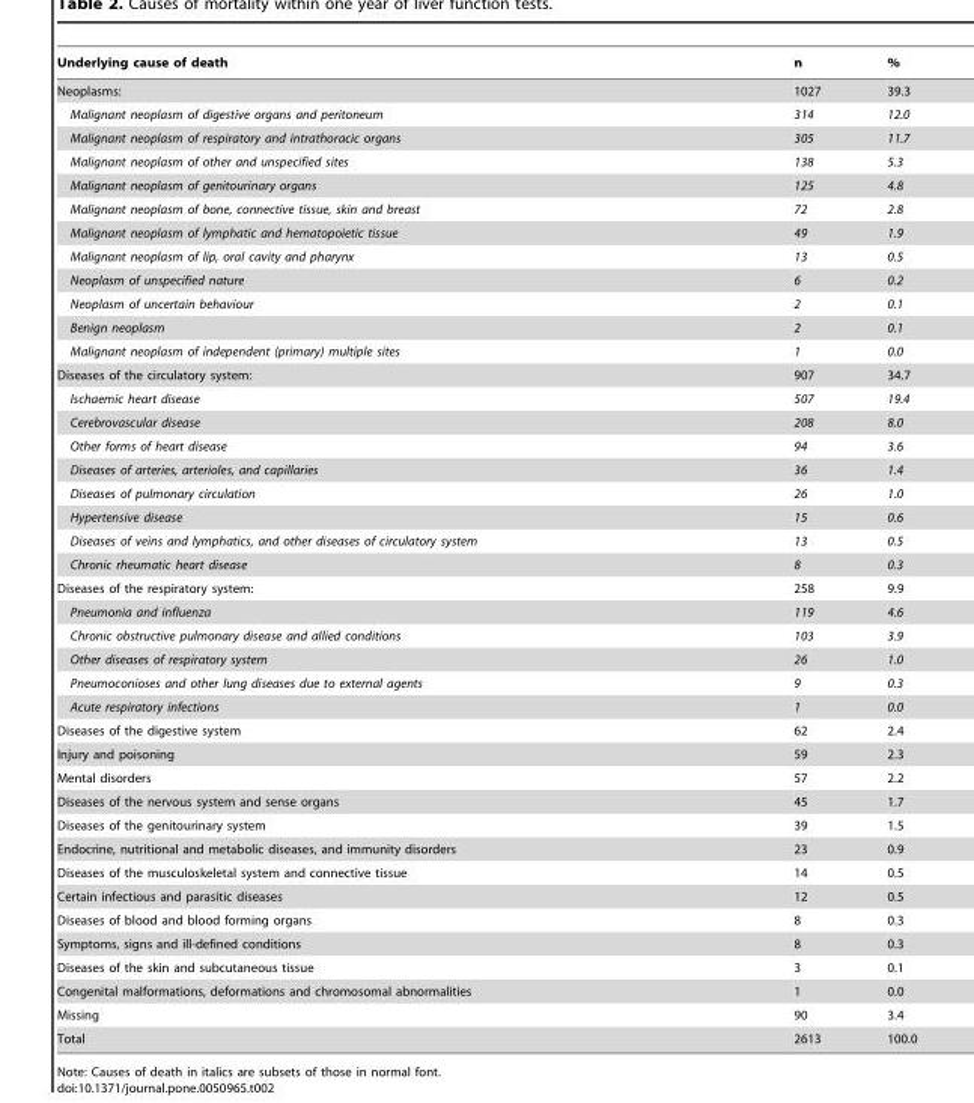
<table><thead><tr><td>Underlying cause of death</td><td>n</td><td>%</td></tr></thead><tbody><tr><td>Neoplasms:</td><td>1027</td><td>39.3</td></tr><tr><td>Malignant neoplasm of digestive organs and peritoneum</td><td>314</td><td>12.0</td></tr><tr><td>Malignant neoplasm of respiratory and intrathoracic organs</td><td>305</td><td>11.7</td></tr><tr><td>Malignant neoplasm of other and unspecified sites</td><td>138</td><td>5.3</td></tr><tr><td>Malignant neoplasm of genitourinary organs</td><td>125</td><td>4.8</td></tr><tr><td>Malignant neoplasm of bone, connective tissue, skin and breast</td><td>72</td><td>2.8</td></tr><tr><td>Malignant neoplasm of lymphatic and hematopoietic tissue</td><td>49</td><td>1.9</td></tr><tr><td>Malignant neoplasm of lip, oral cavity and pharynx</td><td>13</td><td>0.5</td></tr><tr><td>Neoplasm of unspecified nature</td><td>6</td><td>0.2</td></tr><tr><td>Neoplasm of uncertain behaviour</td><td>2</td><td>0.1</td></tr><tr><td>Benign neoplasm</td><td>2</td><td>0.1</td></tr><tr><td>Malignant neoplasm of independent (primary) multiple sites</td><td>1</td><td>0.0</td></tr><tr><td>Diseases of the circulatory system:</td><td>907</td><td>34.7</td></tr><tr><td>Ischaemic heart disease</td><td>507</td><td>19.4</td></tr><tr><td>Cerebrovascular disease</td><td>208</td><td>8.0</td></tr><tr><td>Other forms of heart disease</td><td>94</td><td>3.6</td></tr><tr><td>Diseases of arteries, arterioles, and capillaries</td><td>36</td><td>1.4</td></tr><tr><td>Diseases of pulmonary circulation</td><td>26</td><td>1.0</td></tr><tr><td>Hypertensive disease</td><td>15</td><td>0.6</td></tr><tr><td>Diseases of veins and lymphatics, and other diseases of circulatory system</td><td>13</td><td>0.5</td></tr><tr><td>Chronic rheumatic heart disease</td><td>8</td><td>0.3</td></tr><tr><td>Diseases of the respiratory system:</td><td>258</td><td>9.9</td></tr><tr><td>Pneumonia and influenza</td><td>119</td><td>4.6</td></tr><tr><td>Chronic obstructive pulmonary disease and allied conditions</td><td>103</td><td>3.9</td></tr><tr><td>Other diseases of respiratory system</td><td>26</td><td>1.0</td></tr><tr><td>Pneumoconioses and other lung diseases due to external agents</td><td>9</td><td>0.3</td></tr><tr><td>Acute respiratory infections</td><td>1</td><td>0.0</td></tr><tr><td>Diseases of the digestive system</td><td>62</td><td>2.4</td></tr><tr><td>Injury and poisoning</td><td>59</td><td>2.3</td></tr><tr><td>Mental disorders</td><td>57</td><td>2.2</td></tr><tr><td>Diseases of the nervous system and sense organs</td><td>45</td><td>1.7</td></tr><tr><td>Diseases of the genitourinary system</td><td>39</td><td>1.5</td></tr><tr><td>Endocrine, nutritional and metabolic diseases, and immunity disorders</td><td>23</td><td>0.9</td></tr><tr><td>Diseases of the musculoskeletal system and connective tissue</td><td>14</td><td>0.5</td></tr><tr><td>Certain infectious and parasitic diseases</td><td>12</td><td>0.5</td></tr><tr><td>Diseases of blood and blood forming organs</td><td>8</td><td>0.3</td></tr><tr><td>Symptoms, signs and ill-defined conditions</td><td>8</td><td>0.3</td></tr><tr><td>Diseases of the skin and subcutaneous tissue</td><td>3</td><td>0.1</td></tr><tr><td>Congenital malformations, deformations and chromosomal abnormalities</td><td>1</td><td>0.0</td></tr><tr><td>Missing</td><td>90</td><td>3.4</td></tr><tr><td>Total</td><td>2613</td><td>100.0</td></tr></tbody></table>